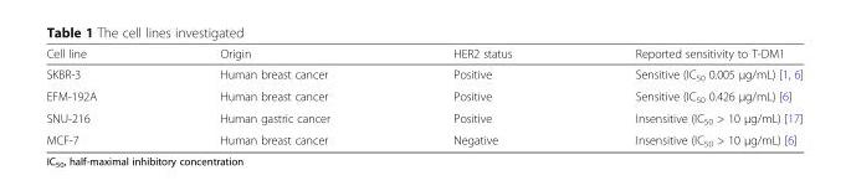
<table><thead><tr><td>Cell line</td><td>Origin</td><td>HER2 status</td><td>Reported sensitivity to T-DM1</td></tr></thead><tbody><tr><td>SKBR-3</td><td>Human breast cancer</td><td>Positive</td><td>Sensitive (IC<sub>50</sub> 0.005 μg/mL) [1, 6]</td></tr><tr><td>EFM-192A</td><td>Human breast cancer</td><td>Positive</td><td>Sensitive (IC<sub>50</sub> 0.426 μg/mL) [6]</td></tr><tr><td>SNU-216</td><td>Human gastric cancer</td><td>Positive</td><td>Insensitive (IC<sub>50</sub> &gt; 10 μg/mL) [17]</td></tr><tr><td>MCF-7</td><td>Human breast cancer</td><td>Negative</td><td>Insensitive (IC<sub>50</sub> &gt; 10 μg/mL) [6]</td></tr></tbody></table>